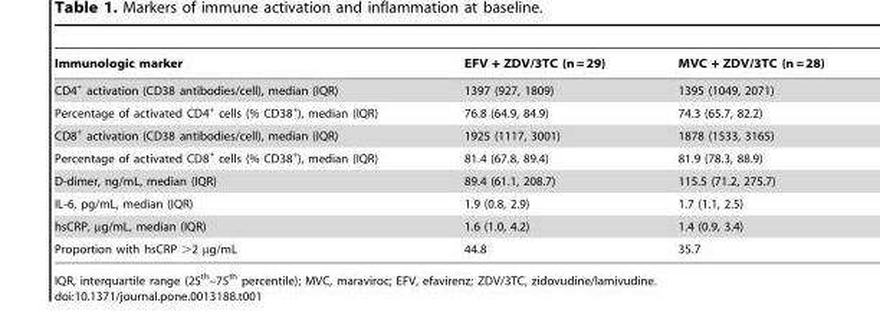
<table><thead><tr><td>Immunologic marker</td><td>EFV + ZDV/3TC (n = 29)</td><td>MVC + ZDV/3TC (n = 28)</td></tr></thead><tbody><tr><td>CD4<sup>+</sup> activation (CD38 antibodies/cell), median (IQR)</td><td>1397 (927, 1809)</td><td>1395 (1049, 2071)</td></tr><tr><td>Percentage of activated CD4<sup>+</sup> cells (% CD38<sup>+</sup>), median (IQR)</td><td>76.8 (64.9, 84.9)</td><td>74.3 (65.7, 82.2)</td></tr><tr><td>CD8<sup>+</sup> activation (CD38 antibodies/cell), median (IQR)</td><td>1925 (1117, 3001)</td><td>1878 (1533, 3165)</td></tr><tr><td>Percentage of activated CD8<sup>+</sup> cells (% CD38<sup>+</sup>), median (IQR)</td><td>81.4 (67.8, 89.4)</td><td>81.9 (78.3, 88.9)</td></tr><tr><td>D-dimer, ng/mL, median (IQR)</td><td>89.4 (61.1, 208.7)</td><td>115.5 (71.2, 275.7)</td></tr><tr><td>IL-6, pg/mL, median (IQR)</td><td>1.9 (0.8, 2.9)</td><td>1.7 (1.1, 2.5)</td></tr><tr><td>hsCRP, µg/mL, median (IQR)</td><td>1.6 (1.0, 4.2)</td><td>1.4 (0.9, 3.4)</td></tr><tr><td>Proportion with hsCRP &gt;2 µg/mL</td><td>44.8</td><td>35.7</td></tr></tbody></table>